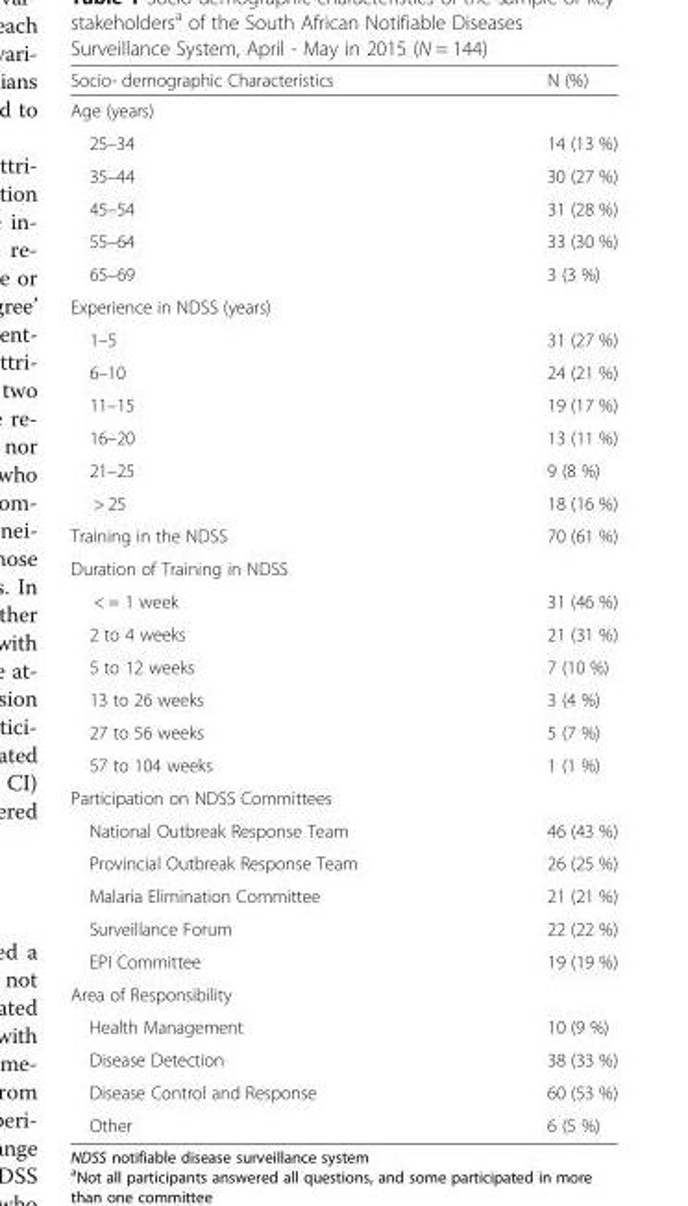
<table><thead><tr><td>Socio- demographic Characteristics</td><td>N (%)</td></tr></thead><tbody><tr><td colspan="2">Age (years)</td></tr><tr><td>25–34</td><td>14 (13 %)</td></tr><tr><td>35–44</td><td>30 (27 %)</td></tr><tr><td>45–54</td><td>31 (28 %)</td></tr><tr><td>55–64</td><td>33 (30 %)</td></tr><tr><td>65–69</td><td>3 (3 %)</td></tr><tr><td colspan="2">Experience in NDSS (years)</td></tr><tr><td>1–5</td><td>31 (27 %)</td></tr><tr><td>6–10</td><td>24 (21 %)</td></tr><tr><td>11–15</td><td>19 (17 %)</td></tr><tr><td>16–20</td><td>13 (11 %)</td></tr><tr><td>21–25</td><td>9 (8 %)</td></tr><tr><td>&gt; 25</td><td>18 (16 %)</td></tr><tr><td>Training in the NDSS</td><td>70 (61 %)</td></tr><tr><td colspan="2">Duration of Training in NDSS</td></tr><tr><td>&lt; = 1 week</td><td>31 (46 %)</td></tr><tr><td>2 to 4 weeks</td><td>21 (31 %)</td></tr><tr><td>5 to 12 weeks</td><td>7 (10 %)</td></tr><tr><td>13 to 26 weeks</td><td>3 (4 %)</td></tr><tr><td>27 to 56 weeks</td><td>5 (7 %)</td></tr><tr><td>57 to 104 weeks</td><td>1 (1 %)</td></tr><tr><td colspan="2">Participation on NDSS Committees</td></tr><tr><td>National Outbreak Response Team</td><td>46 (43 %)</td></tr><tr><td>Provincial Outbreak Response Team</td><td>26 (25 %)</td></tr><tr><td>Malaria Elimination Committee</td><td>21 (21 %)</td></tr><tr><td>Surveillance Forum</td><td>22 (22 %)</td></tr><tr><td>EPI Committee</td><td>19 (19 %)</td></tr><tr><td colspan="2">Area of Responsibility</td></tr><tr><td>Health Management</td><td>10 (9 %)</td></tr><tr><td>Disease Detection</td><td>38 (33 %)</td></tr><tr><td>Disease Control and Response</td><td>60 (53 %)</td></tr><tr><td>Other</td><td>6 (5 %)</td></tr></tbody></table>